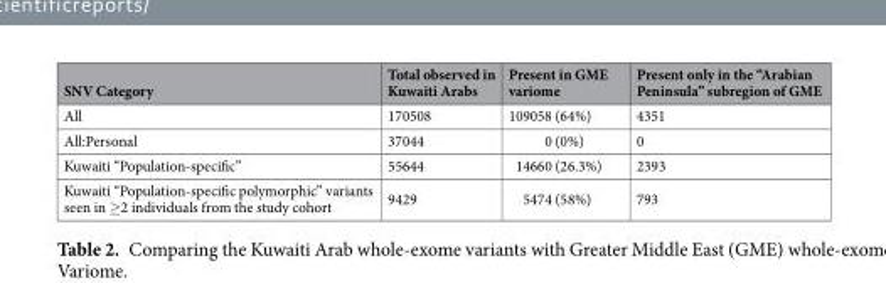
<table><thead><tr><td>SNV Category</td><td>Total observed in Kuwaiti Arabs</td><td>Present in GME variome</td><td>Present only in the “Arabian Peninsula” subregion of GME</td></tr></thead><tbody><tr><td>All</td><td>170508</td><td>109058 (64%)</td><td>4351</td></tr><tr><td>All:Personal</td><td>37044</td><td>0 (0%)</td><td>0</td></tr><tr><td>Kuwaiti “Population-specific”</td><td>55644</td><td>14660 (26.3%)</td><td>2393</td></tr><tr><td>Kuwaiti “Population-specific polymorphic” variants seen in ≥2 individuals from the study cohort</td><td>9429</td><td>5474 (58%)</td><td>793</td></tr></tbody></table>